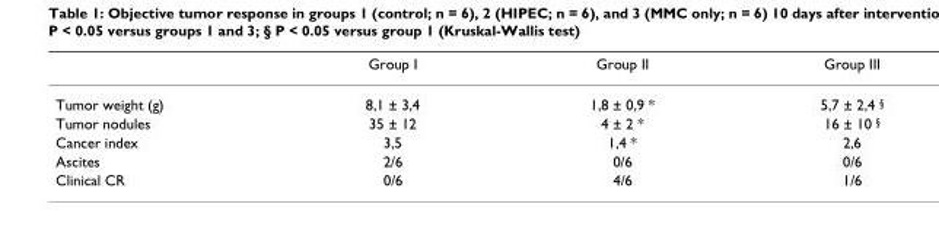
<table><thead><tr><td></td><td>Group I</td><td>Group II</td><td>Group III</td></tr></thead><tbody><tr><td>Tumor weight (g)</td><td>8,1 ± 3,4</td><td>1,8 ± 0,9 *</td><td>5,7 ± 2,4 §</td></tr><tr><td>Tumor nodules</td><td>35 ± 12</td><td>4 ± 2 *</td><td>16 ± 10 §</td></tr><tr><td>Cancer index</td><td>3,5</td><td>1,4 *</td><td>2,6</td></tr><tr><td>Ascites</td><td>2/6</td><td>0/6</td><td>0/6</td></tr><tr><td>Clinical CR</td><td>0/6</td><td>4/6</td><td>1/6</td></tr></tbody></table>